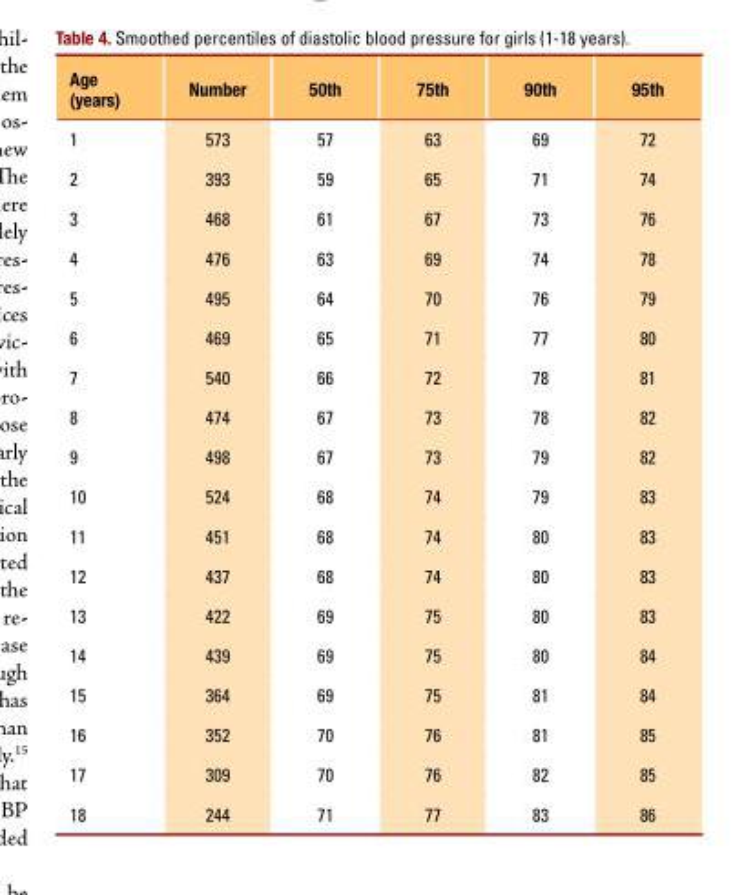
<table><thead><tr><td>Age (years)</td><td>Number</td><td>50th</td><td>75th</td><td>90th</td><td>95th</td></tr></thead><tbody><tr><td>1</td><td>573</td><td>57</td><td>63</td><td>69</td><td>72</td></tr><tr><td>2</td><td>393</td><td>59</td><td>65</td><td>71</td><td>74</td></tr><tr><td>3</td><td>468</td><td>61</td><td>67</td><td>73</td><td>76</td></tr><tr><td>4</td><td>476</td><td>63</td><td>69</td><td>74</td><td>78</td></tr><tr><td>5</td><td>495</td><td>64</td><td>70</td><td>76</td><td>79</td></tr><tr><td>6</td><td>469</td><td>65</td><td>71</td><td>77</td><td>80</td></tr><tr><td>7</td><td>540</td><td>66</td><td>72</td><td>78</td><td>81</td></tr><tr><td>8</td><td>474</td><td>67</td><td>73</td><td>78</td><td>82</td></tr><tr><td>9</td><td>498</td><td>67</td><td>73</td><td>79</td><td>82</td></tr><tr><td>10</td><td>524</td><td>68</td><td>74</td><td>79</td><td>83</td></tr><tr><td>11</td><td>451</td><td>68</td><td>74</td><td>80</td><td>83</td></tr><tr><td>12</td><td>437</td><td>68</td><td>74</td><td>80</td><td>83</td></tr><tr><td>13</td><td>422</td><td>69</td><td>75</td><td>80</td><td>83</td></tr><tr><td>14</td><td>439</td><td>69</td><td>75</td><td>80</td><td>84</td></tr><tr><td>15</td><td>364</td><td>69</td><td>75</td><td>81</td><td>84</td></tr><tr><td>16</td><td>352</td><td>70</td><td>76</td><td>81</td><td>85</td></tr><tr><td>17</td><td>309</td><td>70</td><td>76</td><td>82</td><td>85</td></tr><tr><td>18</td><td>244</td><td>71</td><td>77</td><td>83</td><td>86</td></tr></tbody></table>